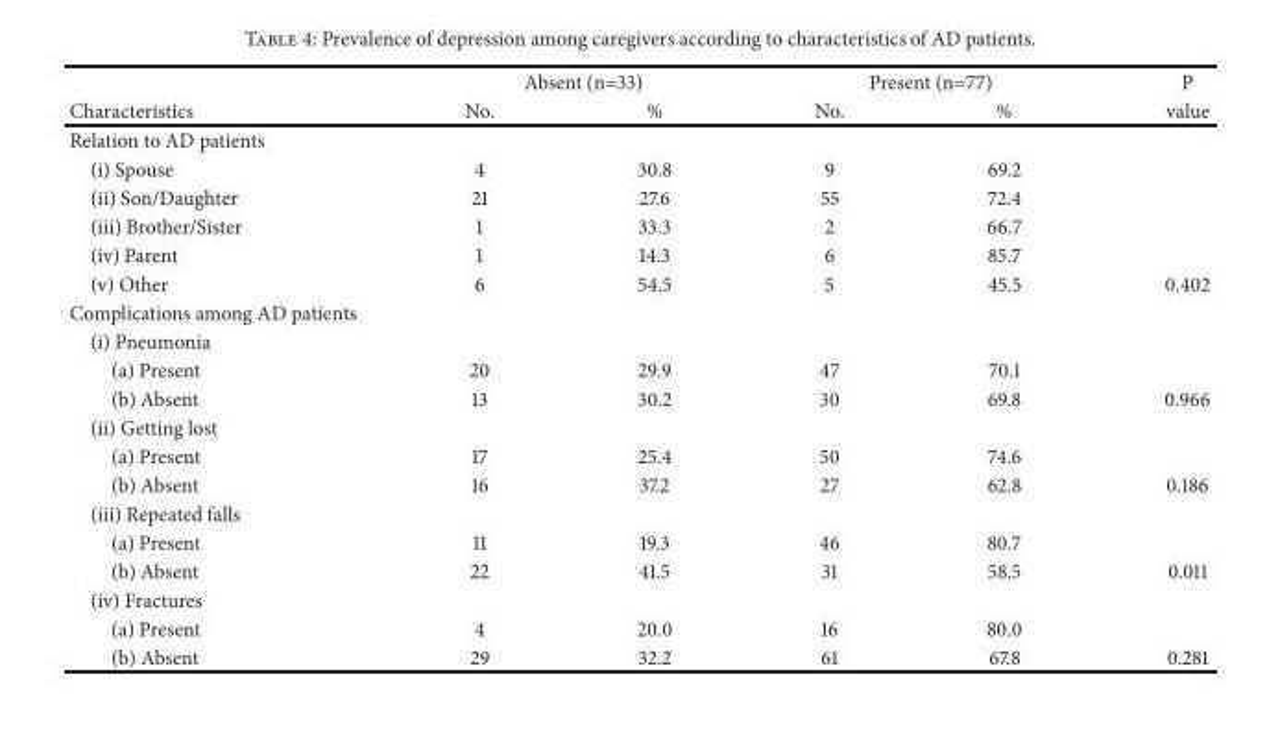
<table><thead><tr><td rowspan="2">Characteristics</td><td colspan="2">Absent (n=33)</td><td colspan="2">Present (n=77)</td><td rowspan="2">P value</td></tr><tr><td>No.</td><td>%</td><td>No.</td><td>%</td></tr></thead><tbody><tr><td colspan="6">Relation to AD patients</td></tr><tr><td>(i) Spouse</td><td>4</td><td>30.8</td><td>9</td><td>69.2</td><td></td></tr><tr><td>(ii) Son/Daughter</td><td>21</td><td>27.6</td><td>55</td><td>72.4</td><td></td></tr><tr><td>(iii) Brother/Sister</td><td>1</td><td>33.3</td><td>2</td><td>66.7</td><td></td></tr><tr><td>(iv) Parent</td><td>1</td><td>14.3</td><td>6</td><td>85.7</td><td></td></tr><tr><td>(v) Other</td><td>6</td><td>54.5</td><td>5</td><td>45.5</td><td>0.402</td></tr><tr><td colspan="6">Complications among AD patients</td></tr><tr><td colspan="6">(i) Pneumonia</td></tr><tr><td>(a) Present</td><td>20</td><td>29.9</td><td>47</td><td>70.1</td><td></td></tr><tr><td>(b) Absent</td><td>13</td><td>30.2</td><td>30</td><td>69.8</td><td>0.966</td></tr><tr><td colspan="6">(ii) Getting lost</td></tr><tr><td>(a) Present</td><td>17</td><td>25.4</td><td>50</td><td>74.6</td><td></td></tr><tr><td>(b) Absent</td><td>16</td><td>37.2</td><td>27</td><td>62.8</td><td>0.186</td></tr><tr><td colspan="6">(iii) Repeated falls</td></tr><tr><td>(a) Present</td><td>11</td><td>19.3</td><td>46</td><td>80.7</td><td></td></tr><tr><td>(b) Absent</td><td>22</td><td>41.5</td><td>31</td><td>58.5</td><td>0.011</td></tr><tr><td colspan="6">(iv) Fractures</td></tr><tr><td>(a) Present</td><td>4</td><td>20.0</td><td>16</td><td>80.0</td><td></td></tr><tr><td>(b) Absent</td><td>29</td><td>32.2</td><td>61</td><td>67.8</td><td>0.281</td></tr></tbody></table>